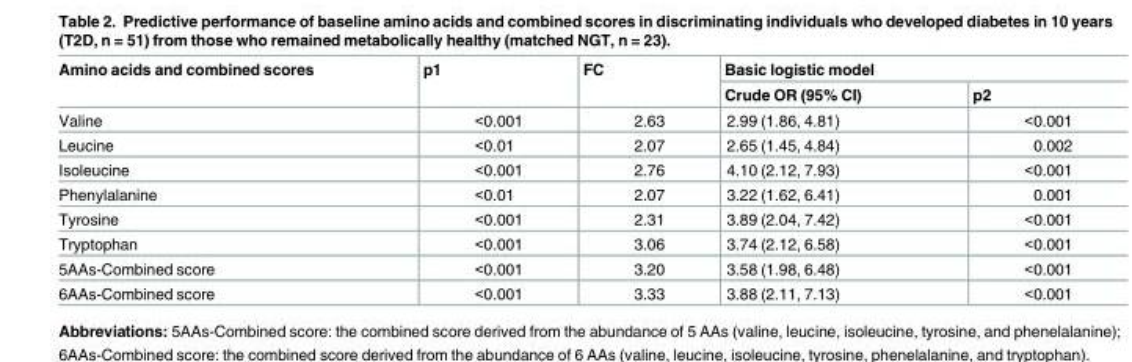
<table><thead><tr><td rowspan="2">Amino acids and combined scores</td><td rowspan="2">p1</td><td rowspan="2">FC</td><td colspan="2">Basic logistic model</td></tr><tr><td>Crude OR (95% CI)</td><td>p2</td></tr></thead><tbody><tr><td>Valine</td><td>&lt;0.001</td><td>2.63</td><td>2.99 (1.86, 4.81)</td><td>&lt;0.001</td></tr><tr><td>Leucine</td><td>&lt;0.01</td><td>2.07</td><td>2.65 (1.45, 4.84)</td><td>0.002</td></tr><tr><td>Isoleucine</td><td>&lt;0.001</td><td>2.76</td><td>4.10 (2.12, 7.93)</td><td>&lt;0.001</td></tr><tr><td>Phenylalanine</td><td>&lt;0.01</td><td>2.07</td><td>3.22 (1.62, 6.41)</td><td>0.001</td></tr><tr><td>Tyrosine</td><td>&lt;0.001</td><td>2.31</td><td>3.89 (2.04, 7.42)</td><td>&lt;0.001</td></tr><tr><td>Tryptophan</td><td>&lt;0.001</td><td>3.06</td><td>3.74 (2.12, 6.58)</td><td>&lt;0.001</td></tr><tr><td>5AAs-Combined score</td><td>&lt;0.001</td><td>3.20</td><td>3.58 (1.98, 6.48)</td><td>&lt;0.001</td></tr><tr><td>6AAs-Combined score</td><td>&lt;0.001</td><td>3.33</td><td>3.88 (2.11, 7.13)</td><td>&lt;0.001</td></tr></tbody></table>